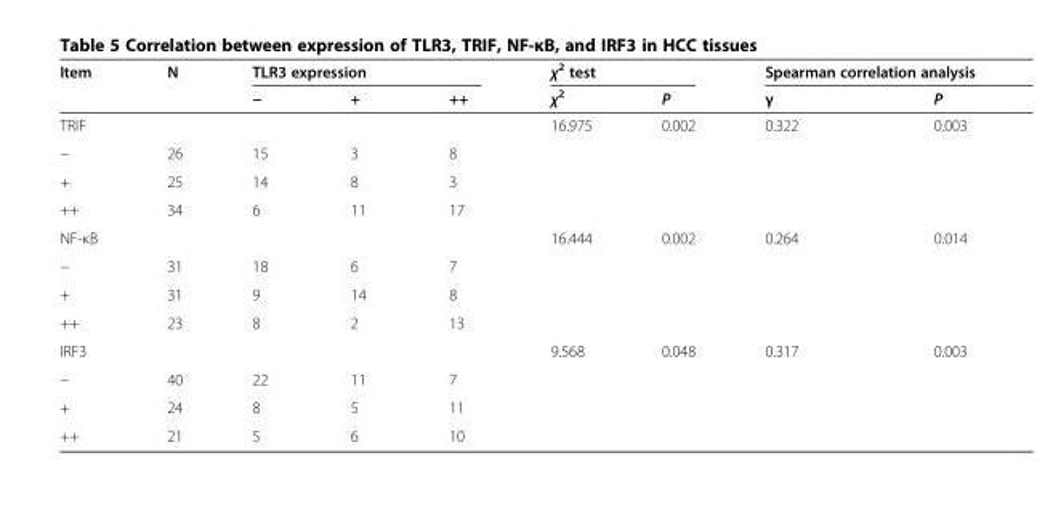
<table><thead><tr><td rowspan="2">Item</td><td rowspan="2">N</td><td colspan="3">TLR3 expression</td><td colspan="2">χ<sup>2</sup> test</td><td colspan="2">Spearman correlation analysis</td></tr><tr><td>−</td><td>+</td><td>++</td><td>χ<sup>2</sup></td><td>P</td><td>γ</td><td>P</td></tr></thead><tbody><tr><td>TRIF</td><td></td><td></td><td></td><td></td><td>16.975</td><td>0.002</td><td>0.322</td><td>0.003</td></tr><tr><td>−</td><td>26</td><td>15</td><td>3</td><td>8</td><td></td><td></td><td></td><td></td></tr><tr><td>+</td><td>25</td><td>14</td><td>8</td><td>3</td><td></td><td></td><td></td><td></td></tr><tr><td>++</td><td>34</td><td>6</td><td>11</td><td>17</td><td></td><td></td><td></td><td></td></tr><tr><td>NF-κB</td><td></td><td></td><td></td><td></td><td>16.444</td><td>0.002</td><td>0.264</td><td>0.014</td></tr><tr><td>−</td><td>31</td><td>18</td><td>6</td><td>7</td><td></td><td></td><td></td><td></td></tr><tr><td>+</td><td>31</td><td>9</td><td>14</td><td>8</td><td></td><td></td><td></td><td></td></tr><tr><td>++</td><td>23</td><td>8</td><td>2</td><td>13</td><td></td><td></td><td></td><td></td></tr><tr><td>IRF3</td><td></td><td></td><td></td><td></td><td>9.568</td><td>0.048</td><td>0.317</td><td>0.003</td></tr><tr><td>−</td><td>40</td><td>22</td><td>11</td><td>7</td><td></td><td></td><td></td><td></td></tr><tr><td>+</td><td>24</td><td>8</td><td>5</td><td>11</td><td></td><td></td><td></td><td></td></tr><tr><td>++</td><td>21</td><td>5</td><td>6</td><td>10</td><td></td><td></td><td></td><td></td></tr></tbody></table>